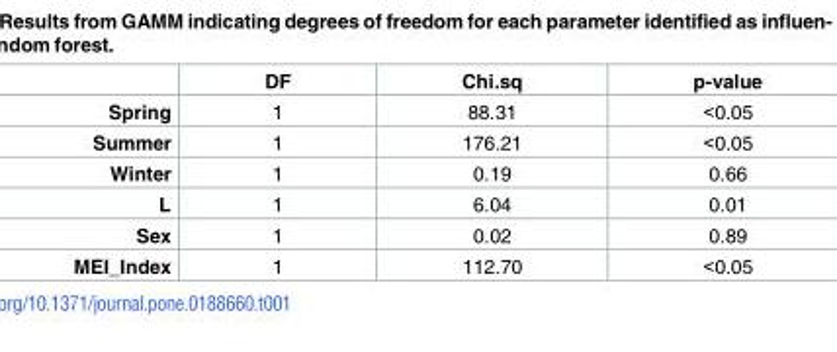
<table><thead><tr><td></td><td>DF</td><td>Chi.sq</td><td>p-value</td></tr></thead><tbody><tr><td>Spring</td><td>1</td><td>88.31</td><td>&lt;0.05</td></tr><tr><td>Summer</td><td>1</td><td>176.21</td><td>&lt;0.05</td></tr><tr><td>Winter</td><td>1</td><td>0.19</td><td>0.66</td></tr><tr><td>L</td><td>1</td><td>6.04</td><td>0.01</td></tr><tr><td>Sex</td><td>1</td><td>0.02</td><td>0.89</td></tr><tr><td>MEI_Index</td><td>1</td><td>112.70</td><td>&lt;0.05</td></tr></tbody></table>